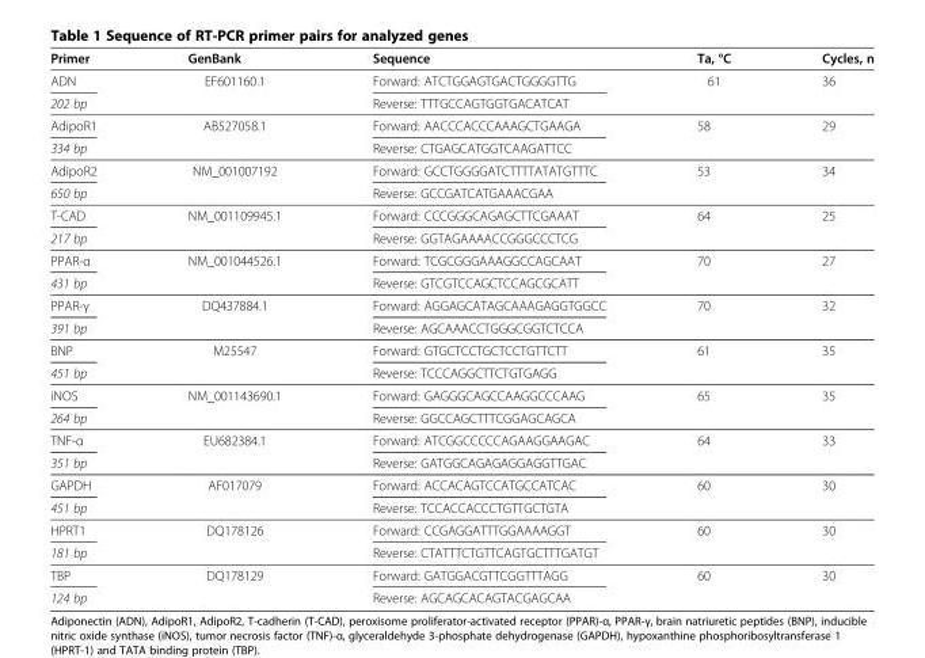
<table><tbody><tr><td>Primer</td><td>GenBank</td><td>Sequence</td><td>Ta, °C</td><td>Cycles, n</td></tr><tr><td>ADN</td><td rowspan="2">EF601160.1</td><td>Forward: ATCTGGAGTGACTGGGGTTG</td><td rowspan="2">61</td><td rowspan="2">36</td></tr><tr><td>202 bp</td><td>Reverse: TTTGCCAGTGGTGACATCAT</td></tr><tr><td>AdipoR1</td><td rowspan="2">AB527058.1</td><td>Forward: AACCCACCCAAAGCTGAAGA</td><td rowspan="2">58</td><td rowspan="2">29</td></tr><tr><td>334 bp</td><td>Reverse: CTGAGCATGGTCAAGATTCC</td></tr><tr><td>AdipoR2</td><td rowspan="2">NM_001007192</td><td>Forward: GCCTGGGGATCTTTTATATGTTTC</td><td rowspan="2">53</td><td rowspan="2">34</td></tr><tr><td>650 bp</td><td>Reverse: GCCGATCATGAAACGAA</td></tr><tr><td>T-CAD</td><td rowspan="2">NM_001109945.1</td><td>Forward: CCCGGGCAGAGCTTCGAAAT</td><td rowspan="2">64</td><td rowspan="2">25</td></tr><tr><td>217 bp</td><td>Reverse: GGTAGAAAACCGGGCCCTCG</td></tr><tr><td>PPAR-α</td><td rowspan="2">NM_001044526.1</td><td>Forward: TCGCGGGAAAGGCCAGCAAT</td><td rowspan="2">70</td><td rowspan="2">27</td></tr><tr><td>431 bp</td><td>Reverse: GTCGTCCAGCTCCAGCGCATT</td></tr><tr><td>PPAR-γ</td><td rowspan="2">DQ437884.1</td><td>Forward: AGGAGCATAGCAAAGAGGTGGCC</td><td rowspan="2">70</td><td rowspan="2">32</td></tr><tr><td>391 bp</td><td>Reverse: AGCAAACCTGGGCGGTCTCCA</td></tr><tr><td>BNP</td><td rowspan="2">M25547</td><td>Forward: GTGCTCCTGCTCCTGTTCTT</td><td rowspan="2">61</td><td rowspan="2">35</td></tr><tr><td>451 bp</td><td>Reverse: TCCCAGGCTTCTGTGAGG</td></tr><tr><td>iNOS</td><td rowspan="2">NM_001143690.1</td><td>Forward: GAGGGCAGCCAAGGCCCAAG</td><td rowspan="2">65</td><td rowspan="2">35</td></tr><tr><td>264 bp</td><td>Reverse: GGCCAGCTTTCGGAGCAGCA</td></tr><tr><td>TNF-α</td><td rowspan="2">EU682384.1</td><td>Forward: ATCGGCCCCCAGAAGGAAGAC</td><td rowspan="2">64</td><td rowspan="2">33</td></tr><tr><td>351 bp</td><td>Reverse: GATGGCAGAGAGGAGGTTGAC</td></tr><tr><td>GAPDH</td><td rowspan="2">AF017079</td><td>Forward: ACCACAGTCCATGCCATCAC</td><td rowspan="2">60</td><td rowspan="2">30</td></tr><tr><td>451 bp</td><td>Reverse: TCCACCACCCTGTTGCTGTA</td></tr><tr><td>HPRT1</td><td rowspan="2">DQ178126</td><td>Forward: CCGAGGATTTGGAAAAGGT</td><td rowspan="2">60</td><td rowspan="2">30</td></tr><tr><td>181 bp</td><td>Reverse: CTATTTCTGTTCAGTGCTTTGATGT</td></tr><tr><td>TBP</td><td rowspan="2">DQ178129</td><td>Forward: GATGGACGTTCGGTTTAGG</td><td rowspan="2">60</td><td rowspan="2">30</td></tr><tr><td>124 bp</td><td>Reverse: AGCAGCACAGTACGAGCAA</td></tr></tbody></table>